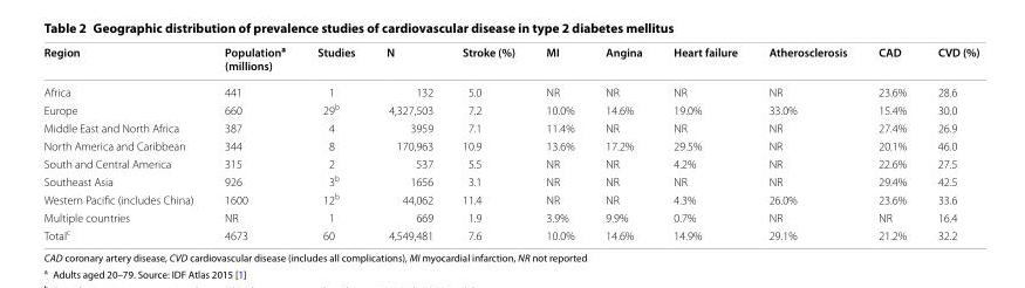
<table><thead><tr><td>Region</td><td>Population<sup>a</sup> (millions)</td><td>Studies</td><td>N</td><td>Stroke (%)</td><td>MI</td><td>Angina</td><td>Heart failure</td><td>Atherosclerosis</td><td>CAD</td><td>CVD (%)</td></tr></thead><tbody><tr><td>Africa</td><td>441</td><td>1</td><td>132</td><td>5.0</td><td>NR</td><td>NR</td><td>NR</td><td>NR</td><td>23.6%</td><td>28.6</td></tr><tr><td>Europe</td><td>660</td><td>29<sup>b</sup></td><td>4,327,503</td><td>7.2</td><td>10.0%</td><td>14.6%</td><td>19.0%</td><td>33.0%</td><td>15.4%</td><td>30.0</td></tr><tr><td>Middle East and North Africa</td><td>387</td><td>4</td><td>3959</td><td>7.1</td><td>11.4%</td><td>NR</td><td>NR</td><td>NR</td><td>27.4%</td><td>26.9</td></tr><tr><td>North America and Caribbean</td><td>344</td><td>8</td><td>170,963</td><td>10.9</td><td>13.6%</td><td>17.2%</td><td>29.5%</td><td>NR</td><td>20.1%</td><td>46.0</td></tr><tr><td>South and Central America</td><td>315</td><td>2</td><td>537</td><td>5.5</td><td>NR</td><td>NR</td><td>4.2%</td><td>NR</td><td>22.6%</td><td>27.5</td></tr><tr><td>Southeast Asia</td><td>926</td><td>3<sup>b</sup></td><td>1656</td><td>3.1</td><td>NR</td><td>NR</td><td>NR</td><td>NR</td><td>29.4%</td><td>42.5</td></tr><tr><td>Western Pacific (includes China)</td><td>1600</td><td>12<sup>b</sup></td><td>44,062</td><td>11.4</td><td>NR</td><td>NR</td><td>4.3%</td><td>26.0%</td><td>23.6%</td><td>33.6</td></tr><tr><td>Multiple countries</td><td>NR</td><td>1</td><td>669</td><td>1.9</td><td>3.9%</td><td>9.9%</td><td>0.7%</td><td>NR</td><td>NR</td><td>16.4</td></tr><tr><td>Total<sup>c</sup></td><td>4673</td><td>60</td><td>4,549,481</td><td>7.6</td><td>10.0%</td><td>14.6%</td><td>14.9%</td><td>29.1%</td><td>21.2%</td><td>32.2</td></tr></tbody></table>